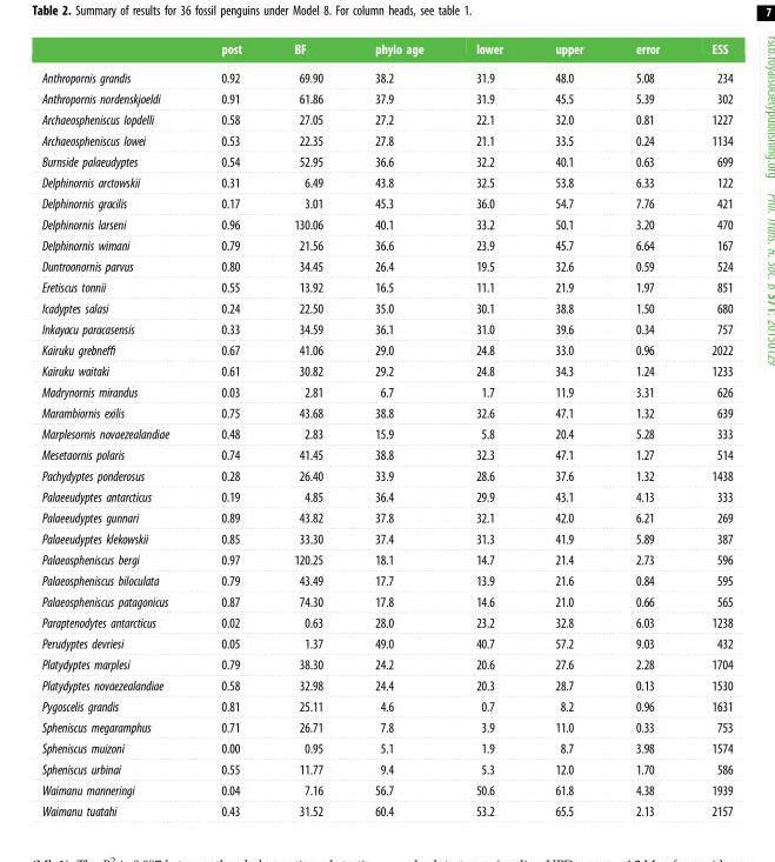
<table><thead><tr><td></td><td>post</td><td>BF</td><td>phylo age</td><td>lower</td><td>upper</td><td>error</td><td>ESS</td></tr></thead><tbody><tr><td>Anthropornis grandis</td><td>0.92</td><td>69.90</td><td>38.2</td><td>31.9</td><td>48.0</td><td>5.08</td><td>234</td></tr><tr><td>Anthropornis nordenskjoeldi</td><td>0.91</td><td>61.86</td><td>37.9</td><td>31.9</td><td>45.5</td><td>5.39</td><td>302</td></tr><tr><td>Archaeospheniscus lopdelli</td><td>0.58</td><td>27.05</td><td>27.2</td><td>22.1</td><td>32.0</td><td>0.81</td><td>1227</td></tr><tr><td>Archaeospheniscus lowei</td><td>0.53</td><td>22.35</td><td>27.8</td><td>21.1</td><td>33.5</td><td>0.24</td><td>1134</td></tr><tr><td>Burnside palaeudyptes</td><td>0.54</td><td>52.95</td><td>36.6</td><td>32.2</td><td>40.1</td><td>0.63</td><td>699</td></tr><tr><td>Delphinornis arctowskii</td><td>0.31</td><td>6.49</td><td>43.8</td><td>32.5</td><td>53.8</td><td>6.33</td><td>122</td></tr><tr><td>Delphinornis gracilis</td><td>0.17</td><td>3.01</td><td>45.3</td><td>36.0</td><td>54.7</td><td>7.76</td><td>421</td></tr><tr><td>Delphinornis larseni</td><td>0.96</td><td>130.06</td><td>40.1</td><td>33.2</td><td>50.1</td><td>3.20</td><td>470</td></tr><tr><td>Delphinornis wimani</td><td>0.79</td><td>21.56</td><td>36.6</td><td>23.9</td><td>45.7</td><td>6.64</td><td>167</td></tr><tr><td>Duntroonornis parvus</td><td>0.80</td><td>34.45</td><td>26.4</td><td>19.5</td><td>32.6</td><td>0.59</td><td>524</td></tr><tr><td>Eretiscus tonnii</td><td>0.55</td><td>13.92</td><td>16.5</td><td>11.1</td><td>21.9</td><td>1.97</td><td>851</td></tr><tr><td>Icadyptes salasi</td><td>0.24</td><td>22.50</td><td>35.0</td><td>30.1</td><td>38.8</td><td>1.50</td><td>680</td></tr><tr><td>Inkayacu paracasensis</td><td>0.33</td><td>34.59</td><td>36.1</td><td>31.0</td><td>39.6</td><td>0.34</td><td>757</td></tr><tr><td>Kairuku grebneffi</td><td>0.67</td><td>41.06</td><td>29.0</td><td>24.8</td><td>33.0</td><td>0.96</td><td>2022</td></tr><tr><td>Kairuku waitaki</td><td>0.61</td><td>30.82</td><td>29.2</td><td>24.8</td><td>34.3</td><td>1.24</td><td>1233</td></tr><tr><td>Madrynornis mirandus</td><td>0.03</td><td>2.81</td><td>6.7</td><td>1.7</td><td>11.9</td><td>3.31</td><td>626</td></tr><tr><td>Marambiornis exilis</td><td>0.75</td><td>43.68</td><td>38.8</td><td>32.6</td><td>47.1</td><td>1.32</td><td>639</td></tr><tr><td>Marplesornis novaezealandiae</td><td>0.48</td><td>2.83</td><td>15.9</td><td>5.8</td><td>20.4</td><td>5.28</td><td>333</td></tr><tr><td>Mesetaornis polaris</td><td>0.74</td><td>41.45</td><td>38.8</td><td>32.3</td><td>47.1</td><td>1.27</td><td>514</td></tr><tr><td>Pachydyptes ponderosus</td><td>0.28</td><td>26.40</td><td>33.9</td><td>28.6</td><td>37.6</td><td>1.32</td><td>1438</td></tr><tr><td>Palaeeudyptes antarcticus</td><td>0.19</td><td>4.85</td><td>36.4</td><td>29.9</td><td>43.1</td><td>4.13</td><td>333</td></tr><tr><td>Palaeeudyptes gunnari</td><td>0.89</td><td>43.82</td><td>37.8</td><td>32.1</td><td>42.0</td><td>6.21</td><td>269</td></tr><tr><td>Palaeeudyptes klekowskii</td><td>0.85</td><td>33.30</td><td>37.4</td><td>31.3</td><td>41.9</td><td>5.89</td><td>387</td></tr><tr><td>Palaeospheniscus bergi</td><td>0.97</td><td>120.25</td><td>18.1</td><td>14.7</td><td>21.4</td><td>2.73</td><td>596</td></tr><tr><td>Palaeospheniscus biloculata</td><td>0.79</td><td>43.49</td><td>17.7</td><td>13.9</td><td>21.6</td><td>0.84</td><td>595</td></tr><tr><td>Palaeospheniscus patagonicus</td><td>0.87</td><td>74.30</td><td>17.8</td><td>14.6</td><td>21.0</td><td>0.66</td><td>565</td></tr><tr><td>Paraptenodytes antarcticus</td><td>0.02</td><td>0.63</td><td>28.0</td><td>23.2</td><td>32.8</td><td>6.03</td><td>1238</td></tr><tr><td>Perudyptes devriesi</td><td>0.05</td><td>1.37</td><td>49.0</td><td>40.7</td><td>57.2</td><td>9.03</td><td>432</td></tr><tr><td>Platydyptes marplesi</td><td>0.79</td><td>38.30</td><td>24.2</td><td>20.6</td><td>27.6</td><td>2.28</td><td>1704</td></tr><tr><td>Platydyptes novaezealandiae</td><td>0.58</td><td>32.98</td><td>24.4</td><td>20.3</td><td>28.7</td><td>0.13</td><td>1530</td></tr><tr><td>Pygoscelis grandis</td><td>0.81</td><td>25.11</td><td>4.6</td><td>0.7</td><td>8.2</td><td>0.96</td><td>1631</td></tr><tr><td>Spheniscus megaramphus</td><td>0.71</td><td>26.71</td><td>7.8</td><td>3.9</td><td>11.0</td><td>0.33</td><td>753</td></tr><tr><td>Spheniscus muizoni</td><td>0.00</td><td>0.95</td><td>5.1</td><td>1.9</td><td>8.7</td><td>3.98</td><td>1574</td></tr><tr><td>Spheniscus urbinai</td><td>0.55</td><td>11.77</td><td>9.4</td><td>5.3</td><td>12.0</td><td>1.70</td><td>586</td></tr><tr><td>Waimanu manneringi</td><td>0.04</td><td>7.16</td><td>56.7</td><td>50.6</td><td>61.8</td><td>4.38</td><td>1939</td></tr><tr><td>Waimanu tuatahi</td><td>0.43</td><td>31.52</td><td>60.4</td><td>53.2</td><td>65.5</td><td>2.13</td><td>2157</td></tr></tbody></table>